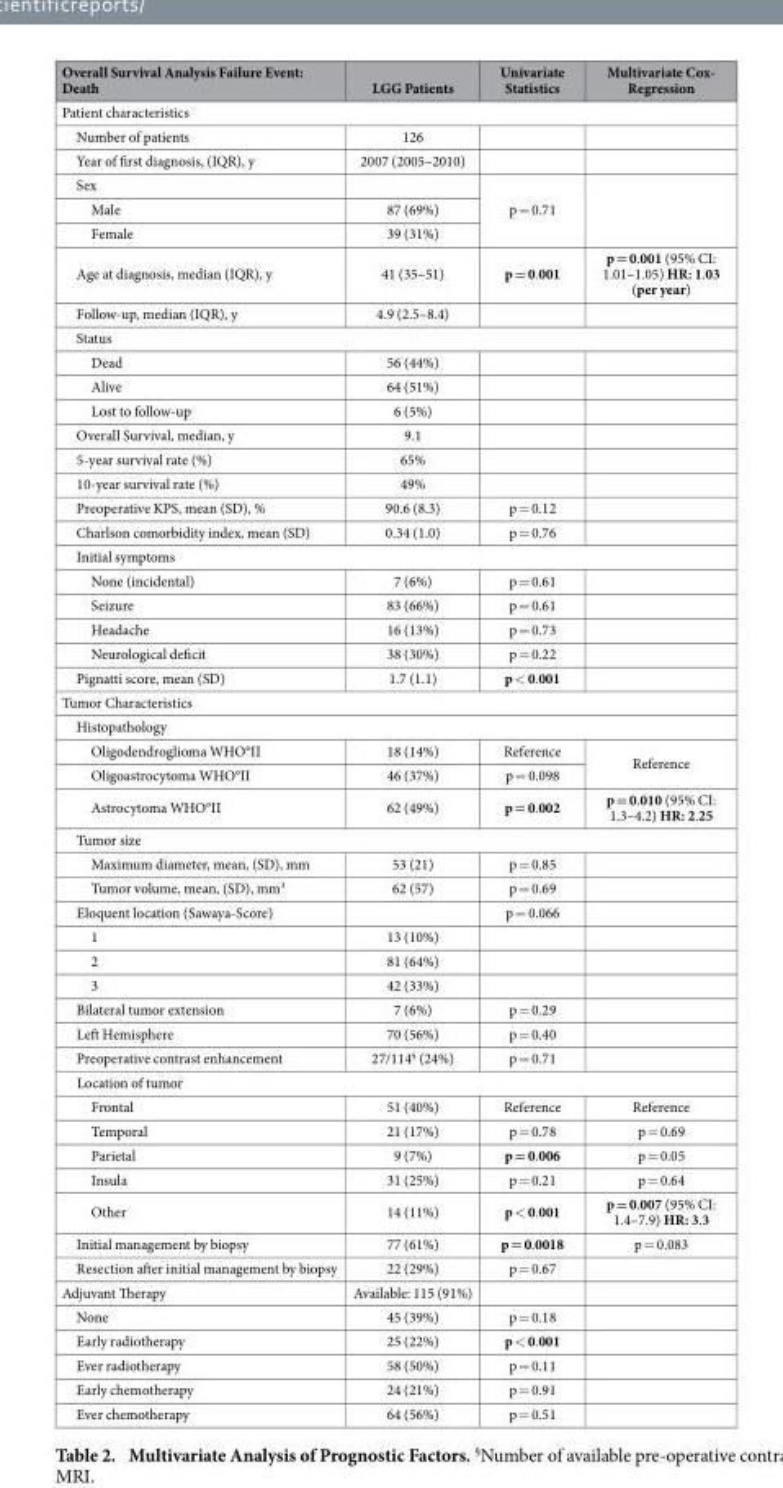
<table><thead><tr><td>Overall Survival Analysis Failure Event: Death</td><td>LGG Patients</td><td>Univariate Statistics</td><td>Multivariate Cox- Regression</td></tr></thead><tbody><tr><td colspan="4">Patient characteristics</td></tr><tr><td>Number of patients</td><td>126</td><td></td><td></td></tr><tr><td>Year of first diagnosis, (IQR), y</td><td>2007 (2005–2010)</td><td></td><td></td></tr><tr><td colspan="2">Sex</td><td rowspan="3">p = 0.71</td><td rowspan="3"></td></tr><tr><td>Male</td><td>87 (69%)</td></tr><tr><td>Female</td><td>39 (31%)</td></tr><tr><td>Age at diagnosis, median (IQR), y</td><td>41 (35–51)</td><td>p = 0.001</td><td>p = 0.001 (95% CI: 1.01–1.05) HR: 1.03 (per year)</td></tr><tr><td>Follow-up, median (IQR), y</td><td>4.9 (2.5–8.4)</td><td></td><td></td></tr><tr><td colspan="4">Status</td></tr><tr><td>Dead</td><td>56 (44%)</td><td></td><td></td></tr><tr><td>Alive</td><td>64 (51%)</td><td></td><td></td></tr><tr><td>Lost to follow-up</td><td>6 (5%)</td><td></td><td></td></tr><tr><td>Overall Survival, median, y</td><td>9.1</td><td></td><td></td></tr><tr><td>5-year survival rate (%)</td><td>65%</td><td></td><td></td></tr><tr><td>10-year survival rate (%)</td><td>49%</td><td></td><td></td></tr><tr><td>Preoperative KPS, mean (SD), %</td><td>90.6 (8.3)</td><td>p = 0.12</td><td></td></tr><tr><td>Charlson comorbidity index, mean (SD)</td><td>0.34 (1.0)</td><td>p = 0.76</td><td></td></tr><tr><td colspan="4">Initial symptoms</td></tr><tr><td>None (incidental)</td><td>7 (6%)</td><td>p = 0.61</td><td></td></tr><tr><td>Seizure</td><td>83 (66%)</td><td>p = 0.61</td><td></td></tr><tr><td>Headache</td><td>16 (13%)</td><td>p = 0.73</td><td></td></tr><tr><td>Neurological deficit</td><td>38 (30%)</td><td>p = 0.22</td><td></td></tr><tr><td>Pignatti score, mean (SD)</td><td>1.7 (1.1)</td><td>p &lt; 0.001</td><td></td></tr><tr><td colspan="4">Tumor Characteristics</td></tr><tr><td colspan="4">Histopathology</td></tr><tr><td>Oligodendroglioma WHO°II</td><td>18 (14%)</td><td>Reference</td><td rowspan="2">Reference</td></tr><tr><td>Oligoastrocytoma WHO°II</td><td>46 (37%)</td><td>p = 0.098</td></tr><tr><td>Astrocytoma WHO°II</td><td>62 (49%)</td><td>p = 0.002</td><td>p = 0.010 (95% CI: 1.3–4.2) HR: 2.25</td></tr><tr><td colspan="4">Tumor size</td></tr><tr><td>Maximum diameter, mean, (SD), mm</td><td>53 (21)</td><td>p = 0.85</td><td></td></tr><tr><td>Tumor volume, mean, (SD), mm<sup>3</sup></td><td>62 (57)</td><td>p = 0.69</td><td></td></tr><tr><td>Eloquent location (Sawaya-Score)</td><td></td><td>p = 0.066</td><td></td></tr><tr><td>1</td><td>13 (10%)</td><td></td><td></td></tr><tr><td>2</td><td>81 (64%)</td><td></td><td></td></tr><tr><td>3</td><td>42 (33%)</td><td></td><td></td></tr><tr><td>Bilateral tumor extension</td><td>7 (6%)</td><td>p = 0.29</td><td></td></tr><tr><td>Left Hemisphere</td><td>70 (56%)</td><td>p = 0.40</td><td></td></tr><tr><td>Preoperative contrast enhancement</td><td>27/114§ (24%)</td><td>p = 0.71</td><td></td></tr><tr><td colspan="4">Location of tumor</td></tr><tr><td>Frontal</td><td>51 (40%)</td><td>Reference</td><td>Reference</td></tr><tr><td>Temporal</td><td>21 (17%)</td><td>p = 0.78</td><td>p = 0.69</td></tr><tr><td>Parietal</td><td>9 (7%)</td><td>p = 0.006</td><td>p = 0.05</td></tr><tr><td>Insula</td><td>31 (25%)</td><td>p = 0.21</td><td>p = 0.64</td></tr><tr><td>Other</td><td>14 (11%)</td><td>p &lt; 0.001</td><td>p = 0.007 (95% CI: 1.4–7.9) HR: 3.3</td></tr><tr><td>Initial management by biopsy</td><td>77 (61%)</td><td>p = 0.0018</td><td>p = 0.083</td></tr><tr><td>Resection after initial management by biopsy</td><td>22 (29%)</td><td>p = 0.67</td><td></td></tr><tr><td>Adjuvant Therapy</td><td>Available: 115 (91%)</td><td></td><td></td></tr><tr><td>None</td><td>45 (39%)</td><td>p = 0.18</td><td></td></tr><tr><td>Early radiotherapy</td><td>25 (22%)</td><td>p &lt; 0.001</td><td></td></tr><tr><td>Ever radiotherapy</td><td>58 (50%)</td><td>p = 0.11</td><td></td></tr><tr><td>Early chemotherapy</td><td>24 (21%)</td><td>p = 0.91</td><td></td></tr><tr><td>Ever chemotherapy</td><td>64 (56%)</td><td>p = 0.51</td><td></td></tr></tbody></table>